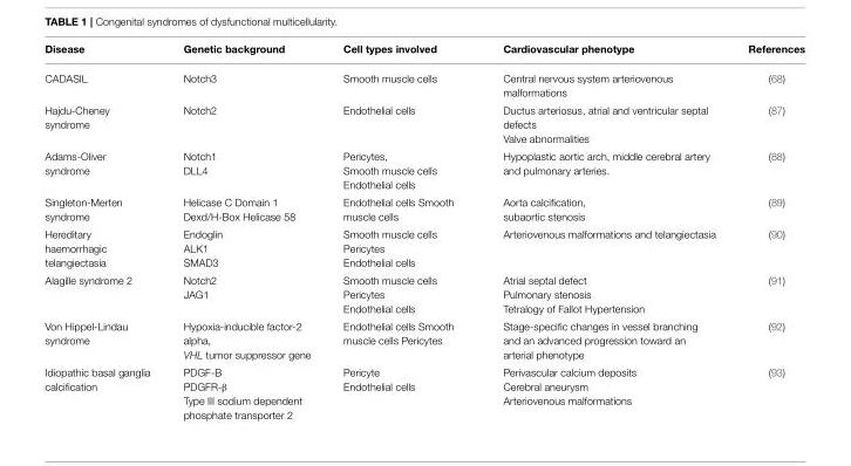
<table><thead><tr><td>Disease</td><td>Genetic background</td><td>Cell types involved</td><td>Cardiovascular phenotype</td><td>References</td></tr></thead><tbody><tr><td>CADASIL</td><td>Notch3</td><td>Smooth muscle cells</td><td>Central nervous system arteriovenous malformations</td><td>(68)</td></tr><tr><td>Hajdu-Cheney syndrome</td><td>Notch2</td><td>Endothelial cells</td><td>Ductus arteriosus, atrial and ventricular septal defects Valve abnormalities</td><td>(87)</td></tr><tr><td>Adams-Oliver syndrome</td><td>Notch1 DLL4</td><td>Pericytes, Smooth muscle cells Endothelial cells</td><td>Hypoplastic aortic arch, middle cerebral artery and pulmonary arteries.</td><td>(88)</td></tr><tr><td>Singleton-Merten syndrome</td><td>Helicase C Domain 1 Dexd/H-Box Helicase 58</td><td>Endothelial cells Smooth muscle cells</td><td>Aorta calcification, subaortic stenosis</td><td>(89)</td></tr><tr><td>Hereditary haemorrhagic telangiectasia</td><td>Endoglin ALK1 SMAD3</td><td>Smooth muscle cells Pericytes Endothelial cells</td><td>Arteriovenous malformations and telangiectasia</td><td>(90)</td></tr><tr><td>Alagille syndrome 2</td><td>Notch2 JAG1</td><td>Smooth muscle cells Pericytes Endothelial cells</td><td>Atrial septal defect Pulmonary stenosis Tetralogy of Fallot Hypertension</td><td>(91)</td></tr><tr><td>Von Hippel-Lindau syndrome</td><td>Hypoxia-inducible factor-2 alpha, VHL tumor suppressor gene</td><td>Endothelial cells Smooth muscle cells Pericytes</td><td>Stage-specific changes in vessel branching and an advanced progression toward an arterial phenotype</td><td>(92)</td></tr><tr><td>Idiopathic basal ganglia calcification</td><td>PDGF-B PDGFR-β Type III sodium dependent phosphate transporter 2</td><td>Pericyte Endothelial cells</td><td>Perivascular calcium deposits Cerebral aneurysm Arteriovenous malformations</td><td>(93)</td></tr></tbody></table>